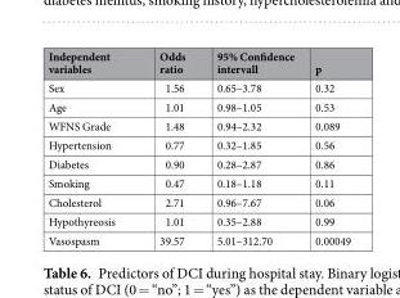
<table><thead><tr><td>Independent variables</td><td>Odds ratio</td><td>95% Confidence intervall</td><td>p</td></tr></thead><tbody><tr><td>Sex</td><td>1.56</td><td>0.65–3.78</td><td>0.32</td></tr><tr><td>Age</td><td>1.01</td><td>0.98–1.05</td><td>0.53</td></tr><tr><td>WFNS Grade</td><td>1.48</td><td>0.94–2.32</td><td>0.089</td></tr><tr><td>Hypertension</td><td>0.77</td><td>0.32–1.85</td><td>0.56</td></tr><tr><td>Diabetes</td><td>0.90</td><td>0.28–2.87</td><td>0.86</td></tr><tr><td>Smoking</td><td>0.47</td><td>0.18–1.18</td><td>0.11</td></tr><tr><td>Cholesterol</td><td>2.71</td><td>0.96–7.67</td><td>0.06</td></tr><tr><td>Hypothyreosis</td><td>1.01</td><td>0.35–2.88</td><td>0.99</td></tr><tr><td>Vasospasm</td><td>39.57</td><td>5.01–312.70</td><td>0.00049</td></tr></tbody></table>